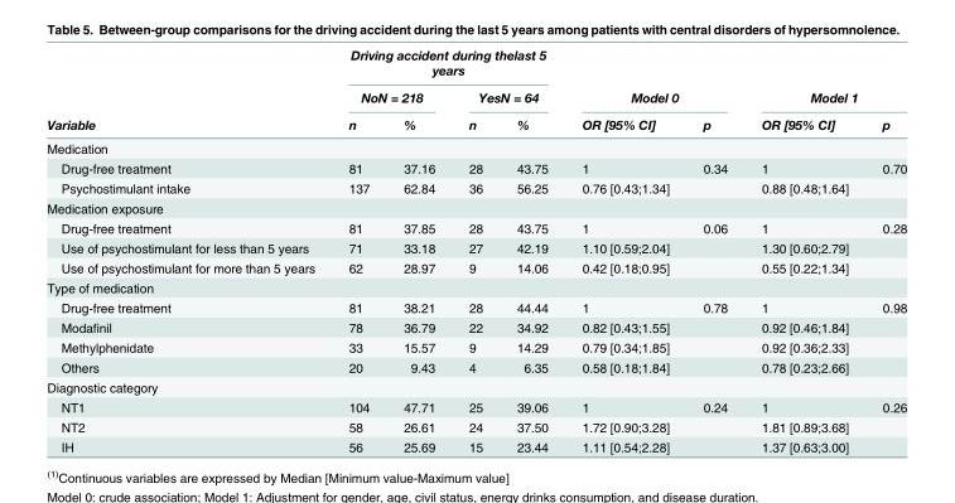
<table><thead><tr><td rowspan="3">Variable</td><td colspan="4">Driving accident during thelast 5 years</td><td></td><td></td><td></td><td></td></tr><tr><td colspan="2">NoN = 218</td><td colspan="2">YesN = 64</td><td colspan="2">Model 0</td><td colspan="2">Model 1</td></tr><tr><td>n</td><td>%</td><td>n</td><td>%</td><td>OR [95% CI]</td><td>p</td><td>OR [95% CI]</td><td>p</td></tr></thead><tbody><tr><td colspan="9">Medication</td></tr><tr><td>Drug-free treatment</td><td>81</td><td>37.16</td><td>28</td><td>43.75</td><td>1</td><td>0.34</td><td>1</td><td>0.70</td></tr><tr><td>Psychostimulant intake</td><td>137</td><td>62.84</td><td>36</td><td>56.25</td><td>0.76 [0.43;1.34]</td><td></td><td>0.88 [0.48;1.64]</td><td></td></tr><tr><td colspan="9">Medication exposure</td></tr><tr><td>Drug-free treatment</td><td>81</td><td>37.85</td><td>28</td><td>43.75</td><td>1</td><td>0.06</td><td>1</td><td>0.28</td></tr><tr><td>Use of psychostimulant for less than 5 years</td><td>71</td><td>33.18</td><td>27</td><td>42.19</td><td>1.10 [0.59;2.04]</td><td></td><td>1.30 [0.60;2.79]</td><td></td></tr><tr><td>Use of psychostimulant for more than 5 years</td><td>62</td><td>28.97</td><td>9</td><td>14.06</td><td>0.42 [0.18;0.95]</td><td></td><td>0.55 [0.22;1.34]</td><td></td></tr><tr><td colspan="9">Type of medication</td></tr><tr><td>Drug-free treatment</td><td>81</td><td>38.21</td><td>28</td><td>44.44</td><td>1</td><td>0.78</td><td>1</td><td>0.98</td></tr><tr><td>Modafinil</td><td>78</td><td>36.79</td><td>22</td><td>34.92</td><td>0.82 [0.43;1.55]</td><td></td><td>0.92 [0.46;1.84]</td><td></td></tr><tr><td>Methylphenidate</td><td>33</td><td>15.57</td><td>9</td><td>14.29</td><td>0.79 [0.34;1.85]</td><td></td><td>0.92 [0.36;2.33]</td><td></td></tr><tr><td>Others</td><td>20</td><td>9.43</td><td>4</td><td>6.35</td><td>0.58 [0.18;1.84]</td><td></td><td>0.78 [0.23;2.66]</td><td></td></tr><tr><td colspan="9">Diagnostic category</td></tr><tr><td>NT1</td><td>104</td><td>47.71</td><td>25</td><td>39.06</td><td>1</td><td>0.24</td><td>1</td><td>0.26</td></tr><tr><td>NT2</td><td>58</td><td>26.61</td><td>24</td><td>37.50</td><td>1.72 [0.90;3.28]</td><td></td><td>1.81 [0.89;3.68]</td><td></td></tr><tr><td>IH</td><td>56</td><td>25.69</td><td>15</td><td>23.44</td><td>1.11 [0.54;2.28]</td><td></td><td>1.37 [0.63;3.00]</td><td></td></tr></tbody></table>